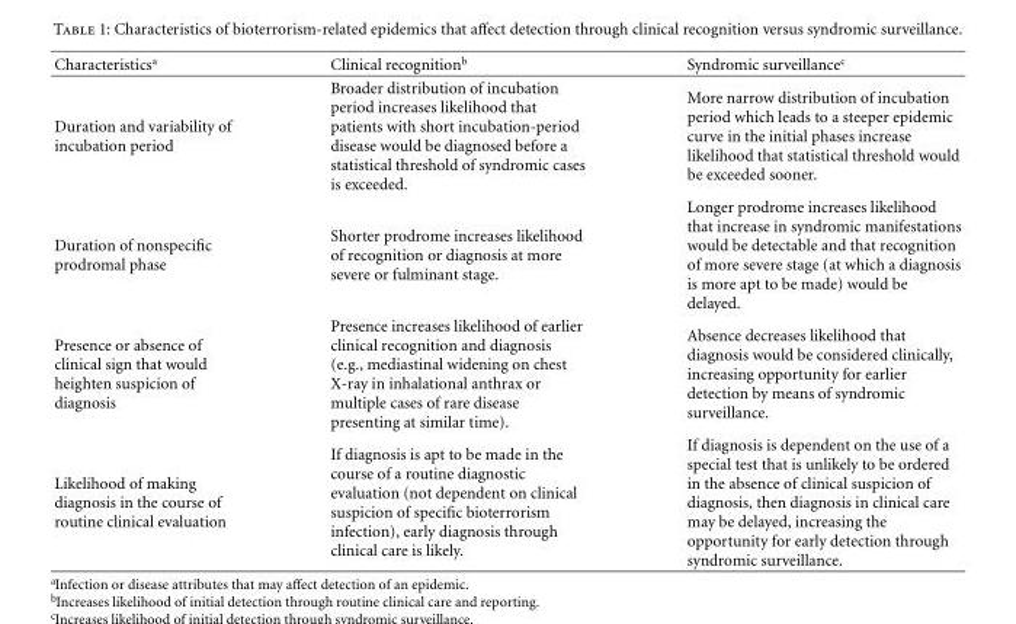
<table><thead><tr><td>Characteristics<sup>a</sup></td><td>Clinical recognition<sup>b</sup></td><td>Syndromic surveillance<sup>c</sup></td></tr></thead><tbody><tr><td>Duration and variability of incubation period</td><td>Broader distribution of incubation period increases likelihood that patients with short incubation-period disease would be diagnosed before a statistical threshold of syndromic cases is exceeded.</td><td>More narrow distribution of incubation period which leads to a steeper epidemic curve in the initial phases increase likelihood that statistical threshold would be exceeded sooner.</td></tr><tr><td>Duration of nonspecific prodromal phase</td><td>Shorter prodrome increases likelihood of recognition or diagnosis at more severe or fulminant stage.</td><td>Longer prodrome increases likelihood that increase in syndromic manifestations would be detectable and that recognition of more severe stage (at which a diagnosis is more apt to be made) would be delayed.</td></tr><tr><td>Presence or absence of clinical sign that would heighten suspicion of diagnosis</td><td>Presence increases likelihood of earlier clinical recognition and diagnosis (e.g., mediastinal widening on chest X-ray in inhalational anthrax or multiple cases of rare disease presenting at similar time).</td><td>Absence decreases likelihood that diagnosis would be considered clinically, increasing opportunity for earlier detection by means of syndromic surveillance.</td></tr><tr><td>Likelihood of making diagnosis in the course of routine clinical evaluation</td><td>If diagnosis is apt to be made in the course of a routine diagnostic evaluation (not dependent on clinical suspicion of specific bioterrorism infection), early diagnosis through clinical care is likely.</td><td>If diagnosis is dependent on the use of a special test that is unlikely to be ordered in the absence of clinical suspicion of diagnosis, then diagnosis in clinical care may be delayed, increasing the opportunity for early detection through syndromic surveillance.</td></tr></tbody></table>